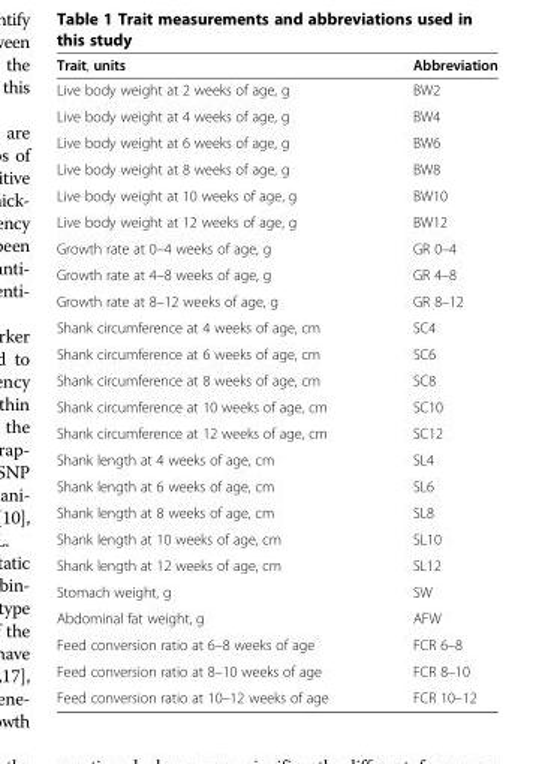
<table><thead><tr><td>Trait, units</td><td>Abbreviation</td></tr></thead><tbody><tr><td>Live body weight at 2 weeks of age, g</td><td>BW2</td></tr><tr><td>Live body weight at 4 weeks of age, g</td><td>BW4</td></tr><tr><td>Live body weight at 6 weeks of age, g</td><td>BW6</td></tr><tr><td>Live body weight at 8 weeks of age, g</td><td>BW8</td></tr><tr><td>Live body weight at 10 weeks of age, g</td><td>BW10</td></tr><tr><td>Live body weight at 12 weeks of age, g</td><td>BW12</td></tr><tr><td>Growth rate at 0–4 weeks of age, g</td><td>GR 0–4</td></tr><tr><td>Growth rate at 4–8 weeks of age, g</td><td>GR 4–8</td></tr><tr><td>Growth rate at 8–12 weeks of age, g</td><td>GR 8–12</td></tr><tr><td>Shank circumference at 4 weeks of age, cm</td><td>SC4</td></tr><tr><td>Shank circumference at 6 weeks of age, cm</td><td>SC6</td></tr><tr><td>Shank circumference at 8 weeks of age, cm</td><td>SC8</td></tr><tr><td>Shank circumference at 10 weeks of age, cm</td><td>SC10</td></tr><tr><td>Shank circumference at 12 weeks of age, cm</td><td>SC12</td></tr><tr><td>Shank length at 4 weeks of age, cm</td><td>SL4</td></tr><tr><td>Shank length at 6 weeks of age, cm</td><td>SL6</td></tr><tr><td>Shank length at 8 weeks of age, cm</td><td>SL8</td></tr><tr><td>Shank length at 10 weeks of age, cm</td><td>SL10</td></tr><tr><td>Shank length at 12 weeks of age, cm</td><td>SL12</td></tr><tr><td>Stomach weight, g</td><td>SW</td></tr><tr><td>Abdominal fat weight, g</td><td>AFW</td></tr><tr><td>Feed conversion ratio at 6–8 weeks of age</td><td>FCR 6–8</td></tr><tr><td>Feed conversion ratio at 8–10 weeks of age</td><td>FCR 8–10</td></tr><tr><td>Feed conversion ratio at 10–12 weeks of age</td><td>FCR 10–12</td></tr></tbody></table>